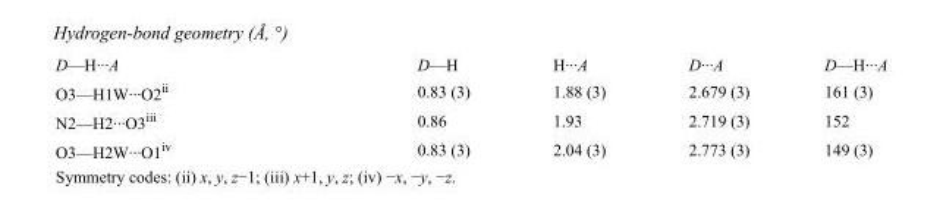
<table><tbody><tr><td>D—H···A</td><td>D—H</td><td>H···A</td><td>D···A</td><td>D—H···A</td></tr><tr><td>O3—H1W···O2<sup>ii</sup></td><td>0.83 (3)</td><td>1.88 (3)</td><td>2.679 (3)</td><td>161 (3)</td></tr><tr><td>N2—H2···O3<sup>iii</sup></td><td>0.86</td><td>1.93</td><td>2.719 (3)</td><td>152</td></tr><tr><td>O3—H2W···O1<sup>iv</sup></td><td>0.83 (3)</td><td>2.04 (3)</td><td>2.773 (3)</td><td>149 (3)</td></tr></tbody></table>